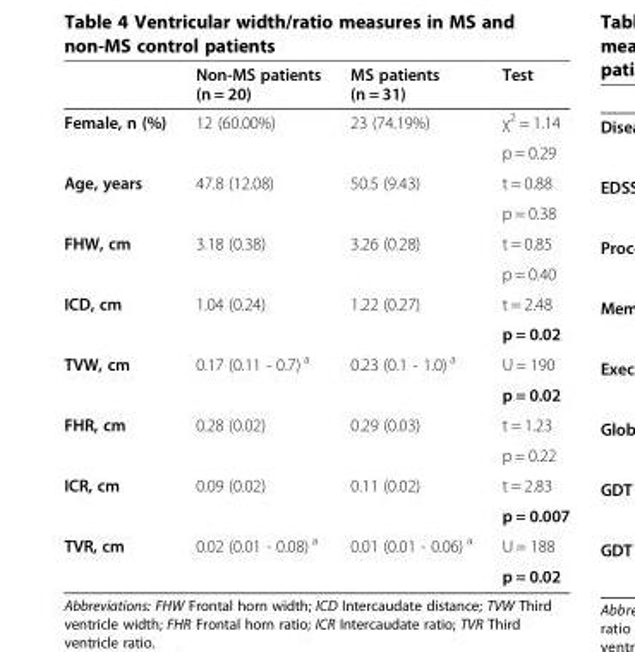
<table><thead><tr><td></td><td>Non-MS patients (n = 20)</td><td>MS patients (n = 31)</td><td>Test</td></tr></thead><tbody><tr><td rowspan="2">Female, n (%)</td><td rowspan="2">12 (60.00%)</td><td rowspan="2">23 (74.19%)</td><td>χ<sup>2</sup> = 1.14</td></tr><tr><td>p = 0.29</td></tr><tr><td rowspan="2">Age, years</td><td rowspan="2">47.8 (12.08)</td><td rowspan="2">50.5 (9.43)</td><td>t = 0.88</td></tr><tr><td>p = 0.38</td></tr><tr><td rowspan="2">FHW, cm</td><td rowspan="2">3.18 (0.38)</td><td rowspan="2">3.26 (0.28)</td><td>t = 0.85</td></tr><tr><td>p = 0.40</td></tr><tr><td rowspan="2">ICD, cm</td><td rowspan="2">1.04 (0.24)</td><td rowspan="2">1.22 (0.27)</td><td>t = 2.48</td></tr><tr><td>p = 0.02</td></tr><tr><td rowspan="2">TVW, cm</td><td rowspan="2">0.17 (0.11 - 0.7) <sup>a</sup></td><td rowspan="2">0.23 (0.1 - 1.0) <sup>a</sup></td><td>U = 190</td></tr><tr><td>p = 0.02</td></tr><tr><td rowspan="2">FHR, cm</td><td rowspan="2">0.28 (0.02)</td><td rowspan="2">0.29 (0.03)</td><td>t = 1.23</td></tr><tr><td>p = 0.22</td></tr><tr><td rowspan="2">ICR, cm</td><td rowspan="2">0.09 (0.02)</td><td rowspan="2">0.11 (0.02)</td><td>t = 2.83</td></tr><tr><td>p = 0.007</td></tr><tr><td rowspan="2">TVR, cm</td><td rowspan="2">0.02 (0.01 - 0.08) <sup>a</sup></td><td rowspan="2">0.01 (0.01 - 0.06) <sup>a</sup></td><td>U = 188</td></tr><tr><td>p = 0.02</td></tr></tbody></table>